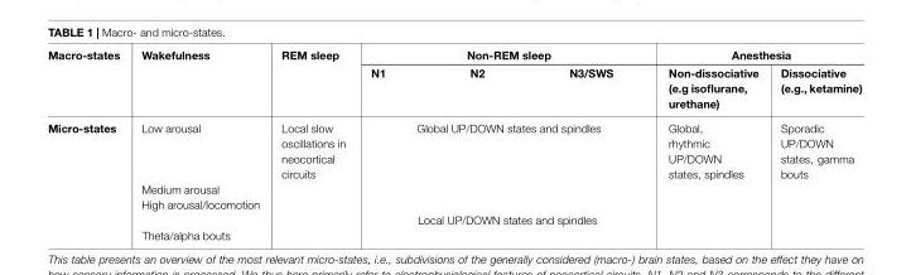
<table><thead><tr><td rowspan="2">Macro-states</td><td rowspan="2">Wakefulness</td><td rowspan="2">REM sleep</td><td colspan="3">Non-REM sleep</td><td colspan="2">Anesthesia</td></tr><tr><td>N1</td><td>N2</td><td>N3/SWS</td><td>Non-dissociative (e.g isoflurane, urethane)</td><td>Dissociative (e.g., ketamine)</td></tr></thead><tbody><tr><td rowspan="3">Micro-states</td><td>Low arousal</td><td>Local slow oscillations in neocortical circuits</td><td colspan="3">Global UP/DOWN states and spindles</td><td>Global, rhythmic UP/DOWN states, spindles</td><td>Sporadic UP/DOWN states, gamma bouts</td></tr><tr><td>Medium arousal High arousal/locomotion</td><td></td><td></td><td></td><td></td><td></td><td></td></tr><tr><td></td><td></td><td colspan="3">Local UP/DOWN states and spindles</td><td></td><td></td></tr></tbody></table>